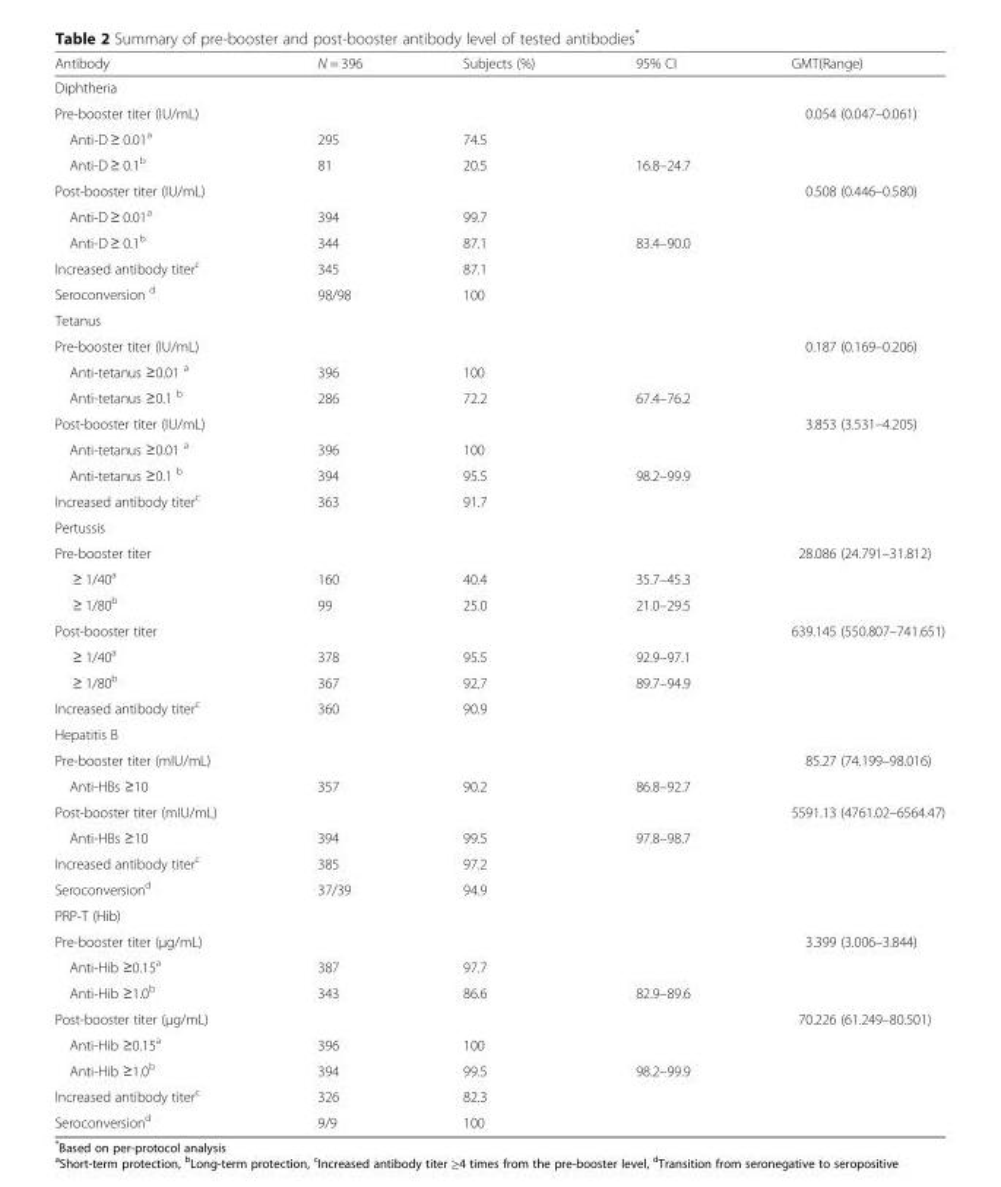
<table><thead><tr><td>Antibody</td><td>N = 396</td><td>Subjects (%)</td><td>95% CI</td><td>GMT(Range)</td></tr></thead><tbody><tr><td colspan="5">Diphtheria</td></tr><tr><td colspan="4">Pre-booster titer (IU/mL)</td><td rowspan="3">0.054 (0.047–0.061)</td></tr><tr><td>Anti-D ≥ 0.01<sup>a</sup></td><td>295</td><td>74.5</td><td></td></tr><tr><td>Anti-D ≥ 0.1<sup>b</sup></td><td>81</td><td>20.5</td><td>16.8–24.7</td></tr><tr><td colspan="4">Post-booster titer (IU/mL)</td><td rowspan="3">0.508 (0.446–0.580)</td></tr><tr><td>Anti-D ≥ 0.01<sup>a</sup></td><td>394</td><td>99.7</td><td></td></tr><tr><td>Anti-D ≥ 0.1<sup>b</sup></td><td>344</td><td>87.1</td><td>83.4–90.0</td></tr><tr><td>Increased antibody titer<sup>c</sup></td><td>345</td><td>87.1</td><td></td><td></td></tr><tr><td>Seroconversion <sup>d</sup></td><td>98/98</td><td>100</td><td></td><td></td></tr><tr><td colspan="5">Tetanus</td></tr><tr><td colspan="4">Pre-booster titer (IU/mL)</td><td rowspan="3">0.187 (0.169–0.206)</td></tr><tr><td>Anti-tetanus ≥0.01 <sup>a</sup></td><td>396</td><td>100</td><td></td></tr><tr><td>Anti-tetanus ≥0.1 <sup>b</sup></td><td>286</td><td>72.2</td><td>67.4–76.2</td></tr><tr><td colspan="4">Post-booster titer (IU/mL)</td><td rowspan="3">3.853 (3.531–4.205)</td></tr><tr><td>Anti-tetanus ≥0.01 <sup>a</sup></td><td>396</td><td>100</td><td></td></tr><tr><td>Anti-tetanus ≥0.1 <sup>b</sup></td><td>394</td><td>95.5</td><td>98.2–99.9</td></tr><tr><td>Increased antibody titer<sup>c</sup></td><td>363</td><td>91.7</td><td></td><td></td></tr><tr><td colspan="5">Pertussis</td></tr><tr><td colspan="4">Pre-booster titer</td><td rowspan="3">28.086 (24.791–31.812)</td></tr><tr><td>≥ 1/40<sup>a</sup></td><td>160</td><td>40.4</td><td>35.7–45.3</td></tr><tr><td>≥ 1/80<sup>b</sup></td><td>99</td><td>25.0</td><td>21.0–29.5</td></tr><tr><td colspan="4">Post-booster titer</td><td rowspan="3">639.145 (550.807–741.651)</td></tr><tr><td>≥ 1/40<sup>a</sup></td><td>378</td><td>95.5</td><td>92.9–97.1</td></tr><tr><td>≥ 1/80<sup>b</sup></td><td>367</td><td>92.7</td><td>89.7–94.9</td></tr><tr><td>Increased antibody titer<sup>c</sup></td><td>360</td><td>90.9</td><td></td><td></td></tr><tr><td colspan="5">Hepatitis B</td></tr><tr><td colspan="4">Pre-booster titer (mIU/mL)</td><td rowspan="2">85.27 (74.199–98.016)</td></tr><tr><td>Anti-HBs ≥10</td><td>357</td><td>90.2</td><td>86.8–92.7</td></tr><tr><td colspan="4">Post-booster titer (mIU/mL)</td><td rowspan="2">5591.13 (4761.02–6564.47)</td></tr><tr><td>Anti-HBs ≥10</td><td>394</td><td>99.5</td><td>97.8–98.7</td></tr><tr><td>Increased antibody titer<sup>c</sup></td><td>385</td><td>97.2</td><td></td><td></td></tr><tr><td>Seroconversion<sup>d</sup></td><td>37/39</td><td>94.9</td><td></td><td></td></tr><tr><td colspan="5">PRP-T (Hib)</td></tr><tr><td colspan="4">Pre-booster titer (μg/mL)</td><td rowspan="3">3.399 (3.006–3.844)</td></tr><tr><td>Anti-Hib ≥0.15<sup>a</sup></td><td>387</td><td>97.7</td><td></td></tr><tr><td>Anti-Hib ≥1.0<sup>b</sup></td><td>343</td><td>86.6</td><td>82.9–89.6</td></tr><tr><td colspan="4">Post-booster titer (μg/mL)</td><td rowspan="3">70.226 (61.249–80.501)</td></tr><tr><td>Anti-Hib ≥0.15<sup>a</sup></td><td>396</td><td>100</td><td></td></tr><tr><td>Anti-Hib ≥1.0<sup>b</sup></td><td>394</td><td>99.5</td><td>98.2–99.9</td></tr><tr><td>Increased antibody titer<sup>c</sup></td><td>326</td><td>82.3</td><td></td><td></td></tr><tr><td>Seroconversion<sup>d</sup></td><td>9/9</td><td>100</td><td></td><td></td></tr></tbody></table>